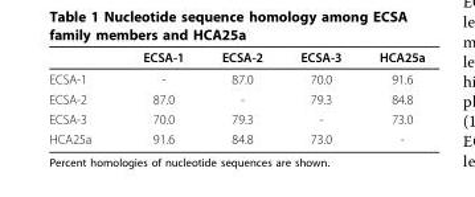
<table><thead><tr><td></td><td>ECSA-1</td><td>ECSA-2</td><td>ECSA-3</td><td>HCA25a</td></tr></thead><tbody><tr><td>ECSA-1</td><td>-</td><td>87.0</td><td>70.0</td><td>91.6</td></tr><tr><td>ECSA-2</td><td>87.0</td><td>-</td><td>79.3</td><td>84.8</td></tr><tr><td>ECSA-3</td><td>70.0</td><td>79.3</td><td>-</td><td>73.0</td></tr><tr><td>HCA25a</td><td>91.6</td><td>84.8</td><td>73.0</td><td>-</td></tr></tbody></table>